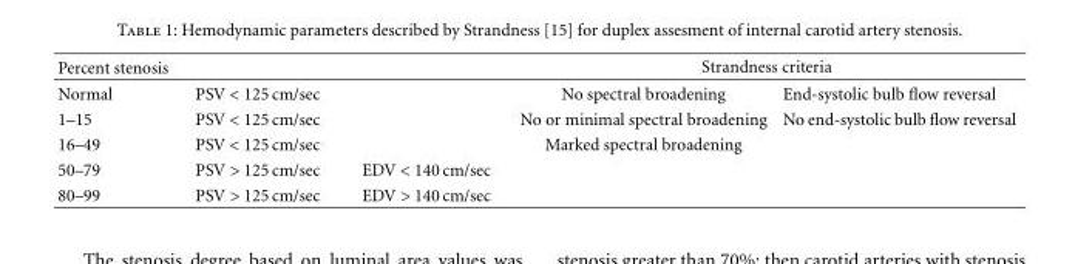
<table><thead><tr><td rowspan="2">Percent stenosis Normal</td><td rowspan="2">PSV &lt; 125 cm/sec</td><td rowspan="2"></td><td colspan="2">Strandness criteria</td></tr><tr><td>No spectral broadening</td><td>End-systolic bulb flow reversal</td></tr></thead><tbody><tr><td>1–15</td><td>PSV &lt; 125 cm/sec</td><td></td><td>No or minimal spectral broadening</td><td>No end-systolic bulb flow reversal</td></tr><tr><td>16–49</td><td>PSV &lt; 125 cm/sec</td><td></td><td>Marked spectral broadening</td><td></td></tr><tr><td>50–79</td><td>PSV &gt; 125 cm/sec</td><td>EDV &lt; 140 cm/sec</td><td></td><td></td></tr><tr><td>80–99</td><td>PSV &gt; 125 cm/sec</td><td>EDV &gt; 140 cm/sec</td><td></td><td></td></tr></tbody></table>